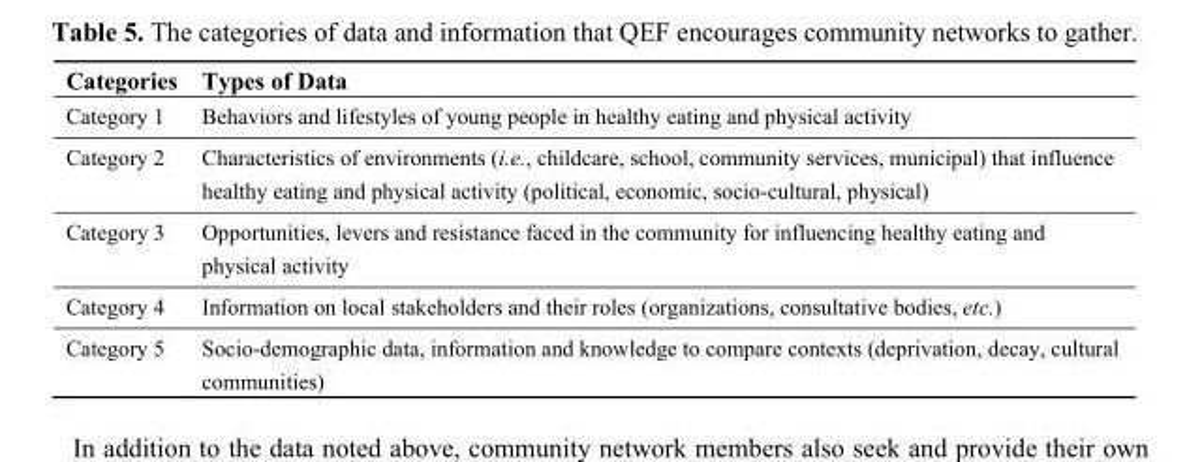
<table><thead><tr><td>Categories</td><td>Types of Data</td></tr></thead><tbody><tr><td>Category 1</td><td>Behaviors and lifestyles of young people in healthy eating and physical activity</td></tr><tr><td>Category 2</td><td>Characteristics of environments (i.e., childcare, school, community services, municipal) that influence healthy eating and physical activity (political, economic, socio-cultural, physical)</td></tr><tr><td>Category 3</td><td>Opportunities, levers and resistance faced in the community for influencing healthy eating and physical activity</td></tr><tr><td>Category 4</td><td>Information on local stakeholders and their roles (organizations, consultative bodies, etc.)</td></tr><tr><td>Category 5</td><td>Socio-demographic data, information and knowledge to compare contexts (deprivation, decay, cultural communities)</td></tr></tbody></table>